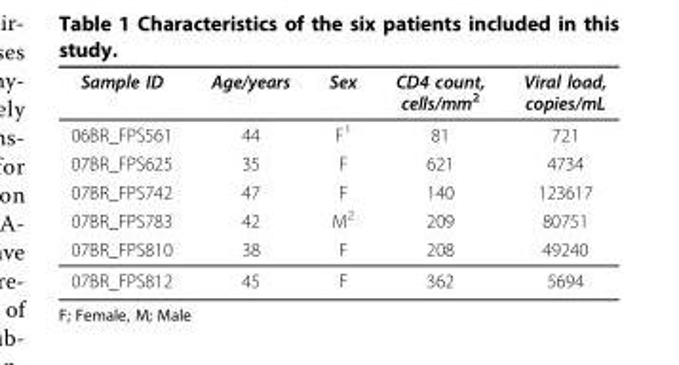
<table><thead><tr><td>Sample ID</td><td>Age/years</td><td>Sex</td><td>CD4 count, cells/mm<sup>2</sup></td><td>Viral load, copies/mL</td></tr></thead><tbody><tr><td>06BR_FPS561</td><td>44</td><td>F<sup>1</sup></td><td>81</td><td>721</td></tr><tr><td>07BR_FPS625</td><td>35</td><td>F</td><td>621</td><td>4734</td></tr><tr><td>07BR_FPS742</td><td>47</td><td>F</td><td>140</td><td>123617</td></tr><tr><td>07BR_FPS783</td><td>42</td><td>M<sup>2</sup></td><td>209</td><td>80751</td></tr><tr><td>07BR_FPS810</td><td>38</td><td>F</td><td>208</td><td>49240</td></tr><tr><td>07BR_FPS812</td><td>45</td><td>F</td><td>362</td><td>5694</td></tr></tbody></table>